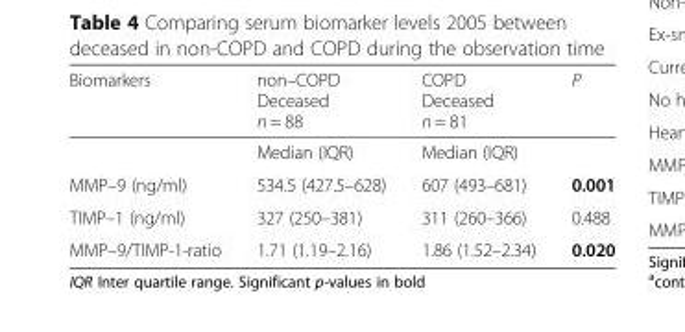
<table><thead><tr><td>Biomarkers</td><td>non–COPD Deceased n = 88</td><td>COPD Deceased n = 81</td><td>P</td></tr></thead><tbody><tr><td></td><td>Median (IQR)</td><td>Median (IQR)</td><td></td></tr><tr><td>MMP–9 (ng/ml)</td><td>534.5 (427.5–628)</td><td>607 (493–681)</td><td>0.001</td></tr><tr><td>TIMP–1 (ng/ml)</td><td>327 (250–381)</td><td>311 (260–366)</td><td>0.488</td></tr><tr><td>MMP–9/TIMP-1-ratio</td><td>1.71 (1.19–2.16)</td><td>1.86 (1.52–2.34)</td><td>0.020</td></tr></tbody></table>